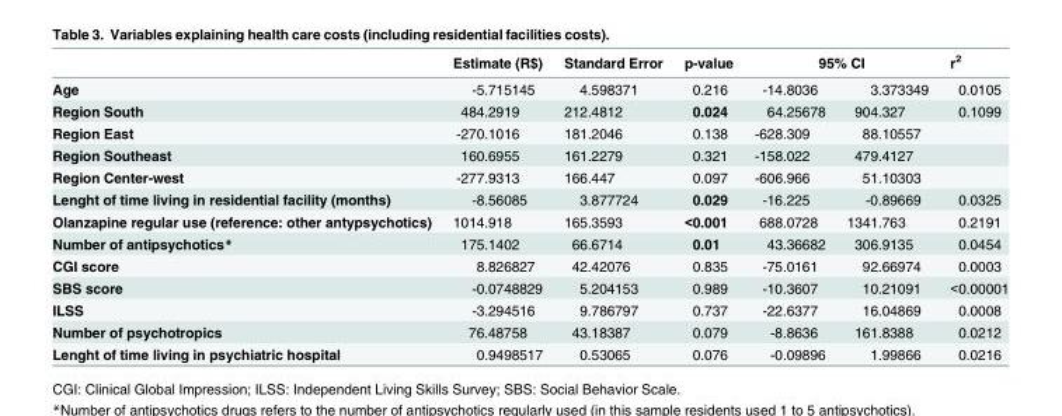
<table><thead><tr><td rowspan="2">Age</td><td rowspan="2">Estimate (R$) -5.715145</td><td rowspan="2">Standard Error 4.598371</td><td rowspan="2">p-value 0.216</td><td colspan="2">95% CI</td><td rowspan="2">r<sup>2</sup> 0.0105</td></tr><tr><td>-14.8036</td><td>3.373349</td></tr></thead><tbody><tr><td>Region South</td><td>484.2919</td><td>212.4812</td><td>0.024</td><td>64.25678</td><td>904.327</td><td>0.1099</td></tr><tr><td>Region East</td><td>-270.1016</td><td>181.2046</td><td>0.138</td><td>-628.309</td><td>88.10557</td><td></td></tr><tr><td>Region Southeast</td><td>160.6955</td><td>161.2279</td><td>0.321</td><td>-158.022</td><td>479.4127</td><td></td></tr><tr><td>Region Center-west</td><td>-277.9313</td><td>166.447</td><td>0.097</td><td>-606.966</td><td>51.10303</td><td></td></tr><tr><td>Lenght of time living in residential facility (months)</td><td>-8.56085</td><td>3.877724</td><td>0.029</td><td>-16.225</td><td>-0.89669</td><td>0.0325</td></tr><tr><td>Olanzapine regular use (reference: other antypsychotics)</td><td>1014.918</td><td>165.3593</td><td>&lt;0.001</td><td>688.0728</td><td>1341.763</td><td>0.2191</td></tr><tr><td>Number of antipsychotics*</td><td>175.1402</td><td>66.6714</td><td>0.01</td><td>43.36682</td><td>306.9135</td><td>0.0454</td></tr><tr><td>CGI score</td><td>8.826827</td><td>42.42076</td><td>0.835</td><td>-75.0161</td><td>92.66974</td><td>0.0003</td></tr><tr><td>SBS score</td><td>-0.0748829</td><td>5.204153</td><td>0.989</td><td>-10.3607</td><td>10.21091</td><td>&lt;0.00001</td></tr><tr><td>ILSS</td><td>-3.294516</td><td>9.786797</td><td>0.737</td><td>-22.6377</td><td>16.04869</td><td>0.0008</td></tr><tr><td>Number of psychotropics</td><td>76.48758</td><td>43.18387</td><td>0.079</td><td>-8.8636</td><td>161.8388</td><td>0.0212</td></tr><tr><td>Lenght of time living in psychiatric hospital</td><td>0.9498517</td><td>0.53065</td><td>0.076</td><td>-0.09896</td><td>1.99866</td><td>0.0216</td></tr></tbody></table>